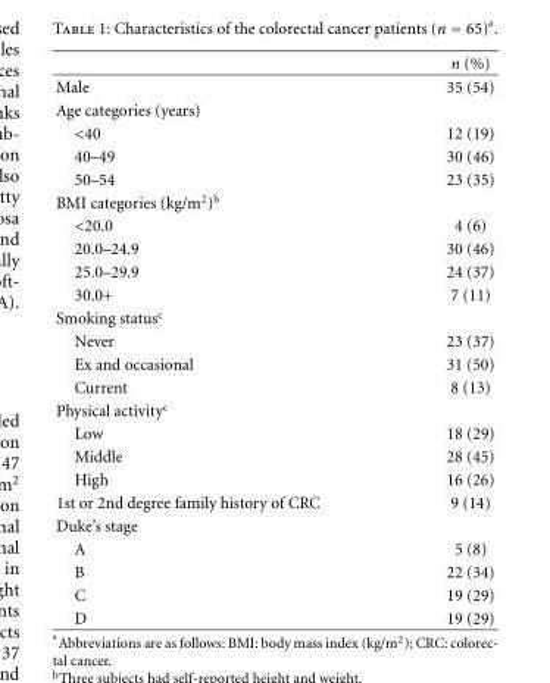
<table><thead><tr><td></td><td>n (%)</td></tr></thead><tbody><tr><td>Male</td><td>35 (54)</td></tr><tr><td colspan="2">Age categories (years)</td></tr><tr><td>&lt;40</td><td>12 (19)</td></tr><tr><td>40–49</td><td>30 (46)</td></tr><tr><td>50–54</td><td>23 (35)</td></tr><tr><td colspan="2">BMI categories (kg/m<sup>2</sup>)<sup>b</sup></td></tr><tr><td>&lt;20.0</td><td>4 (6)</td></tr><tr><td>20.0–24.9</td><td>30 (46)</td></tr><tr><td>25.0–29.9</td><td>24 (37)</td></tr><tr><td>30.0+</td><td>7 (11)</td></tr><tr><td colspan="2">Smoking status<sup>c</sup></td></tr><tr><td>Never</td><td>23 (37)</td></tr><tr><td>Ex and occasional</td><td>31 (50)</td></tr><tr><td>Current</td><td>8 (13)</td></tr><tr><td colspan="2">Physical activity<sup>c</sup></td></tr><tr><td>Low</td><td>18 (29)</td></tr><tr><td>Middle</td><td>28 (45)</td></tr><tr><td>High</td><td>16 (26)</td></tr><tr><td>1st or 2nd degree family history of CRC</td><td>9 (14)</td></tr><tr><td colspan="2">Duke’s stage</td></tr><tr><td>A</td><td>5 (8)</td></tr><tr><td>B</td><td>22 (34)</td></tr><tr><td>C</td><td>19 (29)</td></tr><tr><td>D</td><td>19 (29)</td></tr></tbody></table>